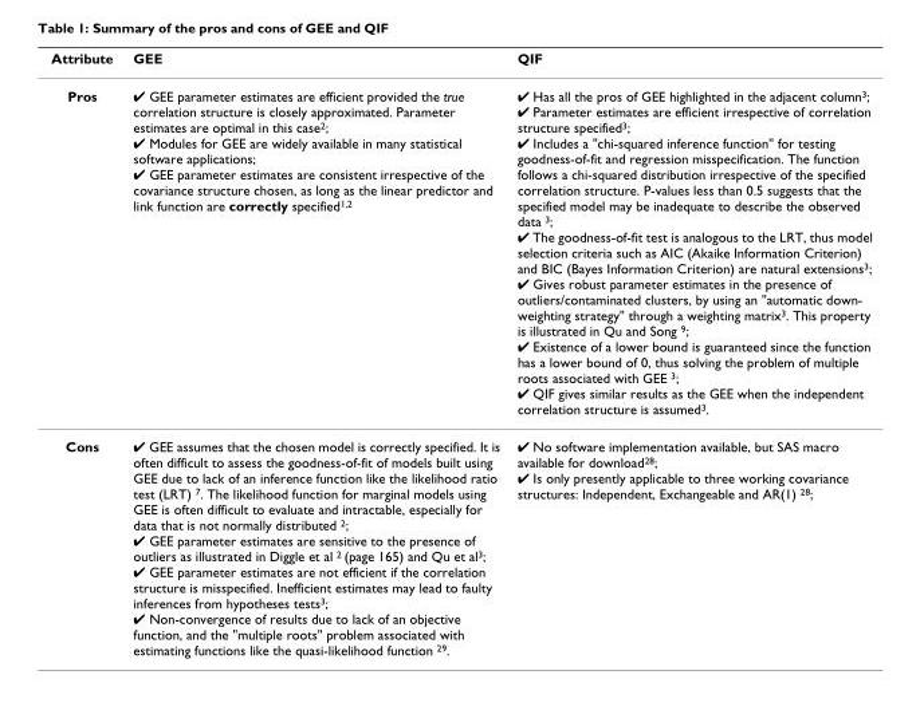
<table><thead><tr><td>Attribute</td><td>GEE</td><td>QIF</td></tr></thead><tbody><tr><td>Pros</td><td>✔ GEE parameter estimates are efficient provided the true correlation structure is closely approximated. Parameter estimates are optimal in this case<sup>2</sup>; ✔ Modules for GEE are widely available in many statistical software applications; ✔ GEE parameter estimates are consistent irrespective of the covariance structure chosen, as long as the linear predictor and link function are correctly specified<sup>1,2</sup></td><td>✔ Has all the pros of GEE highlighted in the adjacent column<sup>3</sup>; ✔ Parameter estimates are efficient irrespective of correlation structure specified<sup>3</sup>; ✔ Includes a &quot;chi-squared inference function&quot; for testing goodness-of-fit and regression misspecification. The function follows a chi-squared distribution irrespective of the specified correlation structure. P-values less than 0.5 suggests that the specified model may be inadequate to describe the observed data <sup>3</sup>; ✔ The goodness-of-fit test is analogous to the LRT, thus model selection criteria such as AIC (Akaike Information Criterion) and BIC (Bayes Information Criterion) are natural extensions<sup>3</sup>; ✔ Gives robust parameter estimates in the presence of outliers/contaminated clusters, by using an &quot;automatic down- weighting strategy&quot; through a weighting matrix<sup>3</sup>. This property is illustrated in Qu and Song <sup>9</sup>; ✔ Existence of a lower bound is guaranteed since the function has a lower bound of 0, thus solving the problem of multiple roots associated with GEE <sup>3</sup>; ✔ QIF gives similar results as the GEE when the independent correlation structure is assumed<sup>3</sup>.</td></tr><tr><td>Cons</td><td>✔ GEE assumes that the chosen model is correctly specified. It is often difficult to assess the goodness-of-fit of models built using GEE due to lack of an inference function like the likelihood ratio test (LRT) <sup>7</sup>. The likelihood function for marginal models using GEE is often difficult to evaluate and intractable, especially for data that is not normally distributed <sup>2</sup>; ✔ GEE parameter estimates are sensitive to the presence of outliers as illustrated in Diggle et al <sup>2</sup> (page 165) and Qu et al<sup>3</sup>; ✔ GEE parameter estimates are not efficient if the correlation structure is misspecified. Inefficient estimates may lead to faulty inferences from hypotheses tests<sup>3</sup>; ✔ Non-convergence of results due to lack of an objective function, and the &quot;multiple roots&quot; problem associated with estimating functions like the quasi-likelihood function <sup>29</sup>.</td><td>✔ No software implementation available, but SAS macro available for download<sup>28</sup>; ✔ Is only presently applicable to three working covariance structures: Independent, Exchangeable and AR(1) <sup>28</sup>;</td></tr></tbody></table>